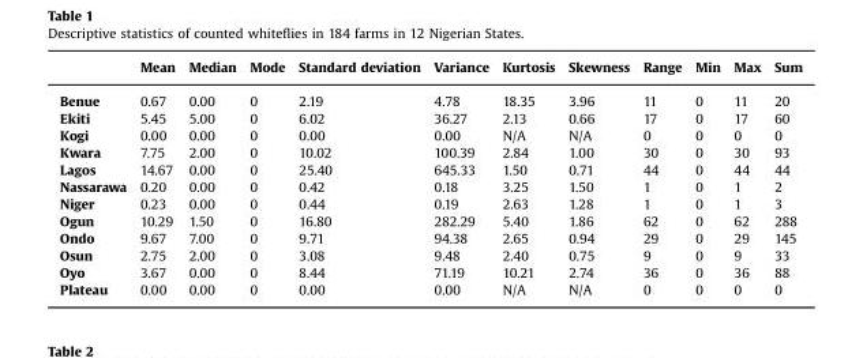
<table><thead><tr><td></td><td>Mean</td><td>Median</td><td>Mode</td><td>Standard deviation</td><td>Variance</td><td>Kurtosis</td><td>Skewness</td><td>Range</td><td>Min</td><td>Max</td><td>Sum</td></tr></thead><tbody><tr><td>Benue</td><td>0.67</td><td>0.00</td><td>0</td><td>2.19</td><td>4.78</td><td>18.35</td><td>3.96</td><td>11</td><td>0</td><td>11</td><td>20</td></tr><tr><td>Ekiti</td><td>5.45</td><td>5.00</td><td>0</td><td>6.02</td><td>36.27</td><td>2.13</td><td>0.66</td><td>17</td><td>0</td><td>17</td><td>60</td></tr><tr><td>Kogi</td><td>0.00</td><td>0.00</td><td>0</td><td>0.00</td><td>0.00</td><td>N/A</td><td>N/A</td><td>0</td><td>0</td><td>0</td><td>0</td></tr><tr><td>Kwara</td><td>7.75</td><td>2.00</td><td>0</td><td>10.02</td><td>100.39</td><td>2.84</td><td>1.00</td><td>30</td><td>0</td><td>30</td><td>93</td></tr><tr><td>Lagos</td><td>14.67</td><td>0.00</td><td>0</td><td>25.40</td><td>645.33</td><td>1.50</td><td>0.71</td><td>44</td><td>0</td><td>44</td><td>44</td></tr><tr><td>Nassarawa</td><td>0.20</td><td>0.00</td><td>0</td><td>0.42</td><td>0.18</td><td>3.25</td><td>1.50</td><td>1</td><td>0</td><td>1</td><td>2</td></tr><tr><td>Niger</td><td>0.23</td><td>0.00</td><td>0</td><td>0.44</td><td>0.19</td><td>2.63</td><td>1.28</td><td>1</td><td>0</td><td>1</td><td>3</td></tr><tr><td>Ogun</td><td>10.29</td><td>1.50</td><td>0</td><td>16.80</td><td>282.29</td><td>5.40</td><td>1.86</td><td>62</td><td>0</td><td>62</td><td>288</td></tr><tr><td>Ondo</td><td>9.67</td><td>7.00</td><td>0</td><td>9.71</td><td>94.38</td><td>2.65</td><td>0.94</td><td>29</td><td>0</td><td>29</td><td>145</td></tr><tr><td>Osun</td><td>2.75</td><td>2.00</td><td>0</td><td>3.08</td><td>9.48</td><td>2.40</td><td>0.75</td><td>9</td><td>0</td><td>9</td><td>33</td></tr><tr><td>Oyo</td><td>3.67</td><td>0.00</td><td>0</td><td>8.44</td><td>71.19</td><td>10.21</td><td>2.74</td><td>36</td><td>0</td><td>36</td><td>88</td></tr><tr><td>Plateau</td><td>0.00</td><td>0.00</td><td>0</td><td>0.00</td><td>0.00</td><td>N/A</td><td>N/A</td><td>0</td><td>0</td><td>0</td><td>0</td></tr></tbody></table>